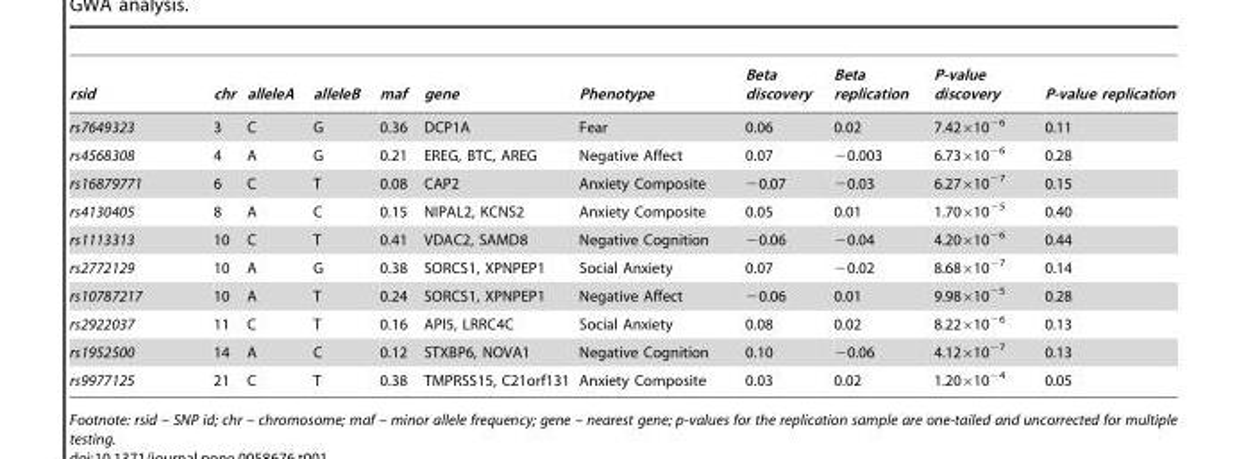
<table><thead><tr><td>rsid</td><td>chr</td><td>alleleA</td><td>alleleB</td><td>maf</td><td>gene</td><td>Phenotype</td><td>Beta discovery</td><td>Beta replication</td><td>P-value discovery</td><td>P-value replication</td></tr></thead><tbody><tr><td>rs7649323</td><td>3</td><td>C</td><td>G</td><td>0.36</td><td>DCP1A</td><td>Fear</td><td>0.06</td><td>0.02</td><td>7.42×10<sup>−6</sup></td><td>0.11</td></tr><tr><td>rs4568308</td><td>4</td><td>A</td><td>G</td><td>0.21</td><td>EREG, BTC, AREG</td><td>Negative Affect</td><td>0.07</td><td>−0.003</td><td>6.73×10<sup>−6</sup></td><td>0.28</td></tr><tr><td>rs16879771</td><td>6</td><td>C</td><td>T</td><td>0.08</td><td>CAP2</td><td>Anxiety Composite</td><td>−0.07</td><td>−0.03</td><td>6.27×10<sup>−7</sup></td><td>0.15</td></tr><tr><td>rs4130405</td><td>8</td><td>A</td><td>C</td><td>0.15</td><td>NIPAL2, KCNS2</td><td>Anxiety Composite</td><td>0.05</td><td>0.01</td><td>1.70×10<sup>−5</sup></td><td>0.40</td></tr><tr><td>rs1113313</td><td>10</td><td>C</td><td>T</td><td>0.41</td><td>VDAC2, SAMD8</td><td>Negative Cognition</td><td>−0.06</td><td>−0.04</td><td>4.20×10<sup>−6</sup></td><td>0.44</td></tr><tr><td>rs2772129</td><td>10</td><td>A</td><td>G</td><td>0.38</td><td>SORCS1, XPNPEP1</td><td>Social Anxiety</td><td>0.07</td><td>−0.02</td><td>8.68×10<sup>−7</sup></td><td>0.14</td></tr><tr><td>rs10787217</td><td>10</td><td>A</td><td>T</td><td>0.24</td><td>SORCS1, XPNPEP1</td><td>Negative Affect</td><td>−0.06</td><td>0.01</td><td>9.98×10<sup>−5</sup></td><td>0.28</td></tr><tr><td>rs2922037</td><td>11</td><td>C</td><td>T</td><td>0.16</td><td>API5, LRRC4C</td><td>Social Anxiety</td><td>0.08</td><td>0.02</td><td>8.22×10<sup>−6</sup></td><td>0.13</td></tr><tr><td>rs1952500</td><td>14</td><td>A</td><td>C</td><td>0.12</td><td>STXBP6, NOVA1</td><td>Negative Cognition</td><td>0.10</td><td>−0.06</td><td>4.12×10<sup>−7</sup></td><td>0.13</td></tr><tr><td>rs9977125</td><td>21</td><td>C</td><td>T</td><td>0.38</td><td>TMPRSS15, C21orf131</td><td>Anxiety Composite</td><td>0.03</td><td>0.02</td><td>1.20×10<sup>−4</sup></td><td>0.05</td></tr></tbody></table>